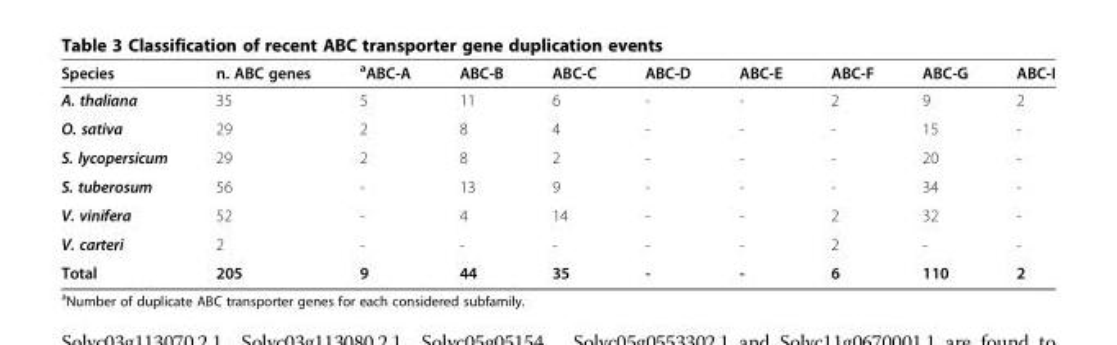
<table><thead><tr><td>Species</td><td>n. ABC genes</td><td><sup>a</sup>ABC-A</td><td>ABC-B</td><td>ABC-C</td><td>ABC-D</td><td>ABC-E</td><td>ABC-F</td><td>ABC-G</td><td>ABC-I</td></tr></thead><tbody><tr><td>A. thaliana</td><td>35</td><td>5</td><td>11</td><td>6</td><td>-</td><td>-</td><td>2</td><td>9</td><td>2</td></tr><tr><td>O. sativa</td><td>29</td><td>2</td><td>8</td><td>4</td><td>-</td><td>-</td><td>-</td><td>15</td><td>-</td></tr><tr><td>S. lycopersicum</td><td>29</td><td>2</td><td>8</td><td>2</td><td>-</td><td>-</td><td>-</td><td>20</td><td>-</td></tr><tr><td>S. tuberosum</td><td>56</td><td>-</td><td>13</td><td>9</td><td>-</td><td>-</td><td>-</td><td>34</td><td>-</td></tr><tr><td>V. vinifera</td><td>52</td><td>-</td><td>4</td><td>14</td><td>-</td><td>-</td><td>2</td><td>32</td><td>-</td></tr><tr><td>V. carteri</td><td>2</td><td>-</td><td>-</td><td>-</td><td>-</td><td>-</td><td>2</td><td>-</td><td>-</td></tr><tr><td>Total</td><td>205</td><td>9</td><td>44</td><td>35</td><td>-</td><td>-</td><td>6</td><td>110</td><td>2</td></tr></tbody></table>